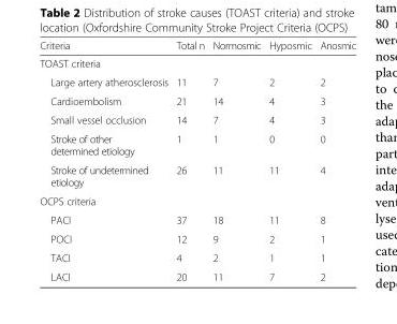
<table><thead><tr><td>Criteria</td><td>Total n</td><td>Normosmic</td><td>Hyposmic</td><td>Anosmic</td></tr></thead><tbody><tr><td colspan="5">TOAST criteria</td></tr><tr><td>Large artery atherosclerosis</td><td>11</td><td>7</td><td>2</td><td>2</td></tr><tr><td>Cardioembolism</td><td>21</td><td>14</td><td>4</td><td>3</td></tr><tr><td>Small vessel occlusion</td><td>14</td><td>7</td><td>4</td><td>3</td></tr><tr><td>Stroke of other determined etiology</td><td>1</td><td>1</td><td>0</td><td>0</td></tr><tr><td>Stroke of undetermined etiology</td><td>26</td><td>11</td><td>11</td><td>4</td></tr><tr><td colspan="5">OCPS criteria</td></tr><tr><td>PACI</td><td>37</td><td>18</td><td>11</td><td>8</td></tr><tr><td>POCI</td><td>12</td><td>9</td><td>2</td><td>1</td></tr><tr><td>TACI</td><td>4</td><td>2</td><td>1</td><td>1</td></tr><tr><td>LACI</td><td>20</td><td>11</td><td>7</td><td>2</td></tr></tbody></table>